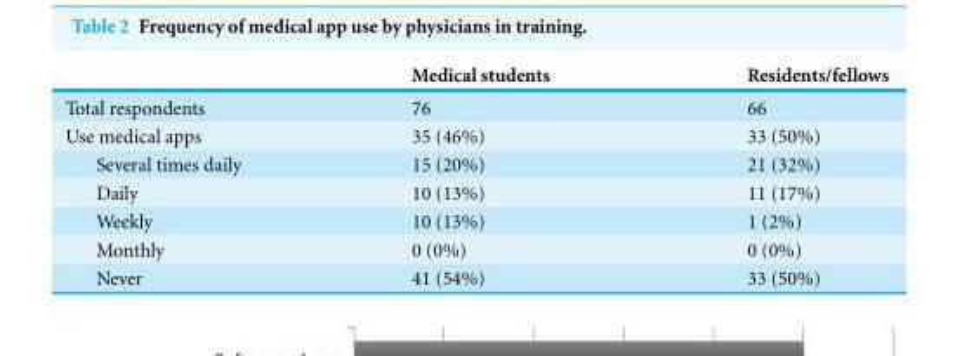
<table><thead><tr><td></td><td>Medical students</td><td>Residents/fellows</td></tr></thead><tbody><tr><td>Total respondents</td><td>76</td><td>66</td></tr><tr><td>Use medical apps</td><td>35 (46%)</td><td>33 (50%)</td></tr><tr><td>Several times daily</td><td>15 (20%)</td><td>21 (32%)</td></tr><tr><td>Daily</td><td>10 (13%)</td><td>11 (17%)</td></tr><tr><td>Weekly</td><td>10 (13%)</td><td>1 (2%)</td></tr><tr><td>Monthly</td><td>0 (0%)</td><td>0 (0%)</td></tr><tr><td>Never</td><td>41 (54%)</td><td>33 (50%)</td></tr></tbody></table>